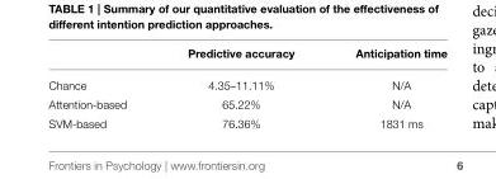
<table><thead><tr><td></td><td>Predictive accuracy</td><td>Anticipation time</td></tr></thead><tbody><tr><td>Chance</td><td>4.35–11.11%</td><td>N/A</td></tr><tr><td>Attention-based</td><td>65.22%</td><td>N/A</td></tr><tr><td>SVM-based</td><td>76.36%</td><td>1831 ms</td></tr></tbody></table>